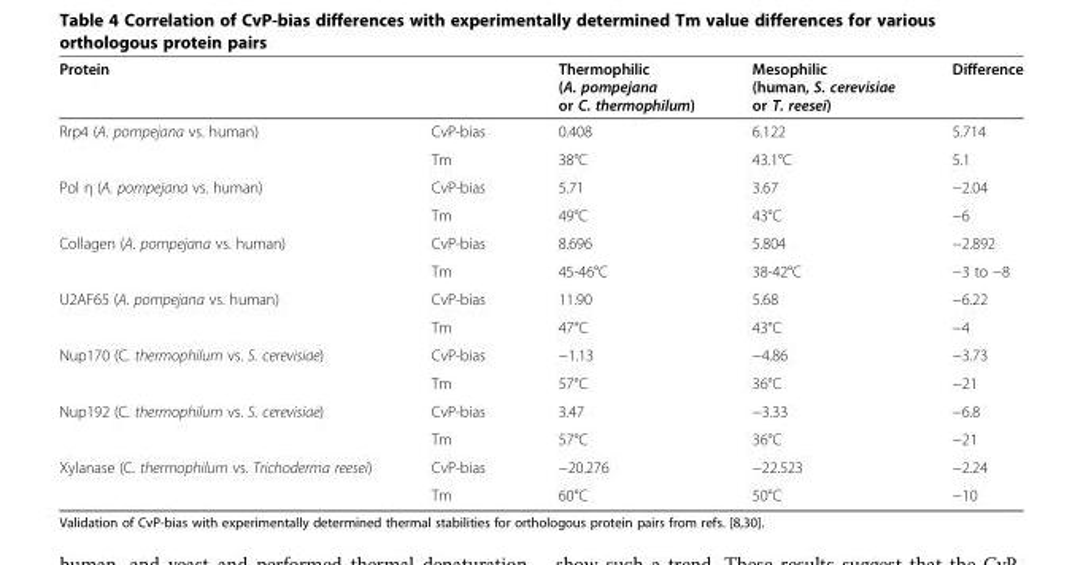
<table><thead><tr><td>Protein</td><td></td><td>Thermophilic (A. pompejana or C. thermophilum)</td><td>Mesophilic (human, S. cerevisiae or T. reesei)</td><td>Difference</td></tr></thead><tbody><tr><td rowspan="2">Rrp4 (A. pompejana vs. human)</td><td>CvP-bias</td><td>0.408</td><td>6.122</td><td>5.714</td></tr><tr><td>Tm</td><td>38°C</td><td>43.1°C</td><td>5.1</td></tr><tr><td rowspan="2">Pol η (A. pompejana vs. human)</td><td>CvP-bias</td><td>5.71</td><td>3.67</td><td>−2.04</td></tr><tr><td>Tm</td><td>49°C</td><td>43°C</td><td>−6</td></tr><tr><td rowspan="2">Collagen (A. pompejana vs. human)</td><td>CvP-bias</td><td>8.696</td><td>5.804</td><td>−2.892</td></tr><tr><td>Tm</td><td>45-46°C</td><td>38-42°C</td><td>−3 to −8</td></tr><tr><td rowspan="2">U2AF65 (A. pompejana vs. human)</td><td>CvP-bias</td><td>11.90</td><td>5.68</td><td>−6.22</td></tr><tr><td>Tm</td><td>47°C</td><td>43°C</td><td>−4</td></tr><tr><td rowspan="2">Nup170 (C. thermophilum vs. S. cerevisiae)</td><td>CvP-bias</td><td>−1.13</td><td>−4.86</td><td>−3.73</td></tr><tr><td>Tm</td><td>57°C</td><td>36°C</td><td>−21</td></tr><tr><td rowspan="2">Nup192 (C. thermophilum vs. S. cerevisiae)</td><td>CvP-bias</td><td>3.47</td><td>−3.33</td><td>−6.8</td></tr><tr><td>Tm</td><td>57°C</td><td>36°C</td><td>−21</td></tr><tr><td rowspan="2">Xylanase (C. thermophilum vs. Trichoderma reesei)</td><td>CvP-bias</td><td>−20.276</td><td>−22.523</td><td>−2.24</td></tr><tr><td>Tm</td><td>60°C</td><td>50°C</td><td>−10</td></tr></tbody></table>